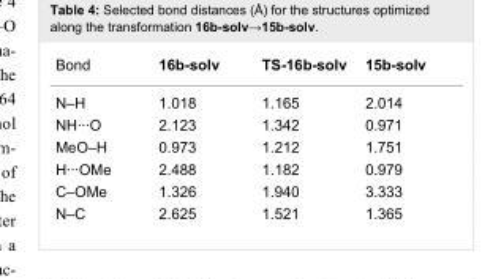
<table><tbody><tr><td>Bond</td><td>16b-solv</td><td>TS-16b-solv</td><td>15b-solv</td></tr><tr><td>N–H</td><td>1.018</td><td>1.165</td><td>2.014</td></tr><tr><td>NH···O</td><td>2.123</td><td>1.342</td><td>0.971</td></tr><tr><td>MeO–H</td><td>0.973</td><td>1.212</td><td>1.751</td></tr><tr><td>H···OMe</td><td>2.488</td><td>1.182</td><td>0.979</td></tr><tr><td>C–OMe</td><td>1.326</td><td>1.940</td><td>3.333</td></tr><tr><td>N–C</td><td>2.625</td><td>1.521</td><td>1.365</td></tr></tbody></table>